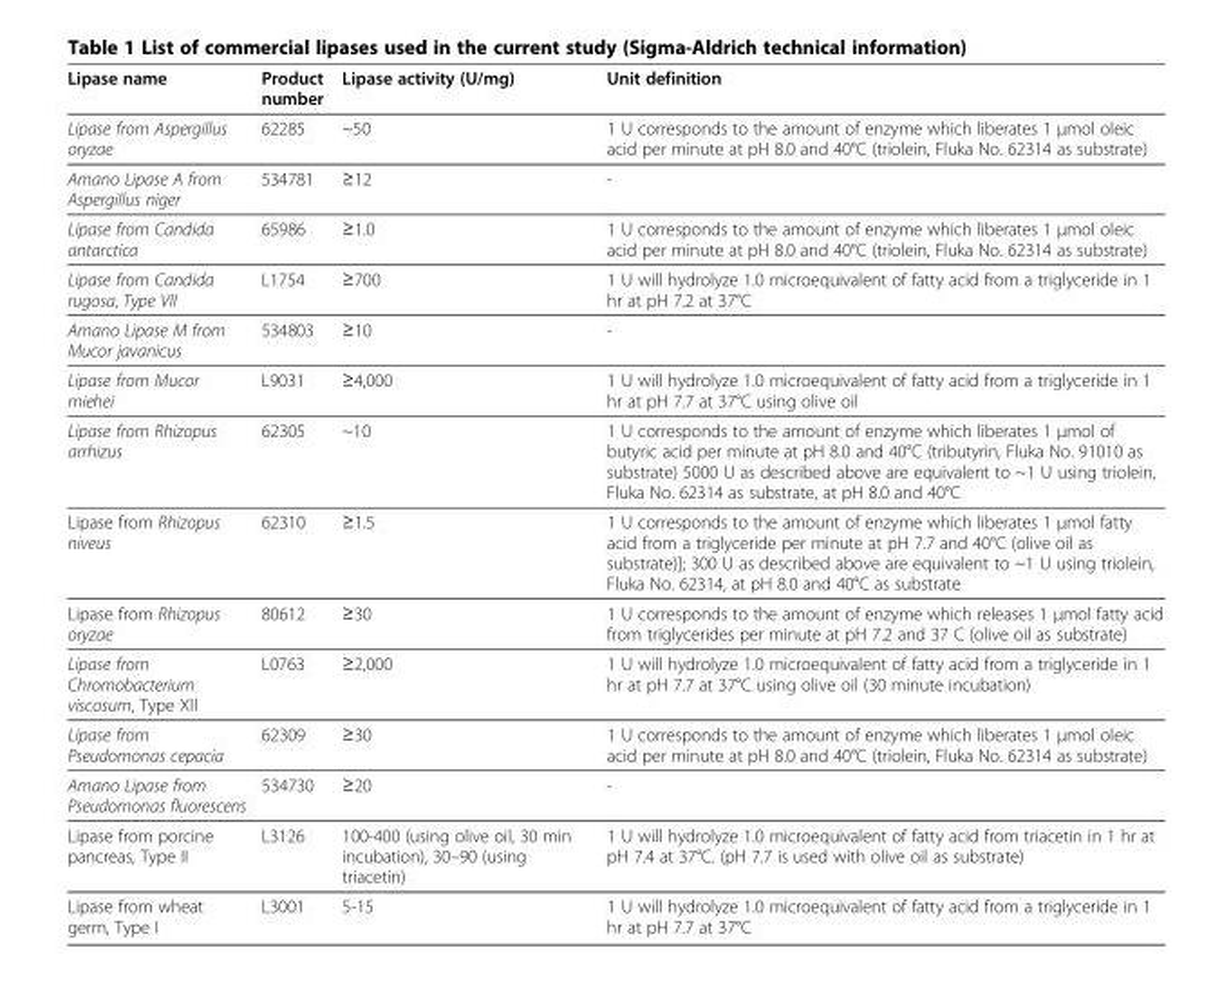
<table><thead><tr><td>Lipase name</td><td>Product number</td><td>Lipase activity (U/mg)</td><td>Unit definition</td></tr></thead><tbody><tr><td>Lipase from Aspergillus oryzae</td><td>62285</td><td>~50</td><td>1 U corresponds to the amount of enzyme which liberates 1 μmol oleic acid per minute at pH 8.0 and 40°C (triolein, Fluka No. 62314 as substrate)</td></tr><tr><td>Amano Lipase A from Aspergillus niger</td><td>534781</td><td>≥12</td><td>-</td></tr><tr><td>Lipase from Candida antarctica</td><td>65986</td><td>≥1.0</td><td>1 U corresponds to the amount of enzyme which liberates 1 μmol oleic acid per minute at pH 8.0 and 40°C (triolein, Fluka No. 62314 as substrate)</td></tr><tr><td>Lipase from Candida rugosa, Type VII</td><td>L1754</td><td>≥700</td><td>1 U will hydrolyze 1.0 microequivalent of fatty acid from a triglyceride in 1 hr at pH 7.2 at 37°C</td></tr><tr><td>Amano Lipase M from Mucor javanicus</td><td>534803</td><td>≥10</td><td>-</td></tr><tr><td>Lipase from Mucor miehei</td><td>L9031</td><td>≥4,000</td><td>1 U will hydrolyze 1.0 microequivalent of fatty acid from a triglyceride in 1 hr at pH 7.7 at 37°C using olive oil</td></tr><tr><td>Lipase from Rhizopus arrhizus</td><td>62305</td><td>~10</td><td>1 U corresponds to the amount of enzyme which liberates 1 μmol of butyric acid per minute at pH 8.0 and 40°C (tributyrin, Fluka No. 91010 as substrate) 5000 U as described above are equivalent to ~1 U using triolein, Fluka No. 62314 as substrate, at pH 8.0 and 40°C</td></tr><tr><td>Lipase from Rhizopus niveus</td><td>62310</td><td>≥1.5</td><td>1 U corresponds to the amount of enzyme which liberates 1 μmol fatty acid from a triglyceride per minute at pH 7.7 and 40°C (olive oil as substrate)]; 300 U as described above are equivalent to ~1 U using triolein, Fluka No. 62314, at pH 8.0 and 40°C as substrate</td></tr><tr><td>Lipase from Rhizopus oryzae</td><td>80612</td><td>≥30</td><td>1 U corresponds to the amount of enzyme which releases 1 μmol fatty acid from triglycerides per minute at pH 7.2 and 37 C (olive oil as substrate)</td></tr><tr><td>Lipase from Chromobacterium viscosum, Type XII</td><td>L0763</td><td>≥2,000</td><td>1 U will hydrolyze 1.0 microequivalent of fatty acid from a triglyceride in 1 hr at pH 7.7 at 37°C using olive oil (30 minute incubation)</td></tr><tr><td>Lipase from Pseudomonas cepacia</td><td>62309</td><td>≥30</td><td>1 U corresponds to the amount of enzyme which liberates 1 μmol oleic acid per minute at pH 8.0 and 40°C (triolein, Fluka No. 62314 as substrate)</td></tr><tr><td>Amano Lipase from Pseudomonas fluorescens</td><td>534730</td><td>≥20</td><td>-</td></tr><tr><td>Lipase from porcine pancreas, Type II</td><td>L3126</td><td>100-400 (using olive oil, 30 min incubation), 30–90 (using triacetin)</td><td>1 U will hydrolyze 1.0 microequivalent of fatty acid from triacetin in 1 hr at pH 7.4 at 37°C. (pH 7.7 is used with olive oil as substrate)</td></tr><tr><td>Lipase from wheat germ, Type I</td><td>L3001</td><td>5-15</td><td>1 U will hydrolyze 1.0 microequivalent of fatty acid from a triglyceride in 1 hr at pH 7.7 at 37°C</td></tr></tbody></table>